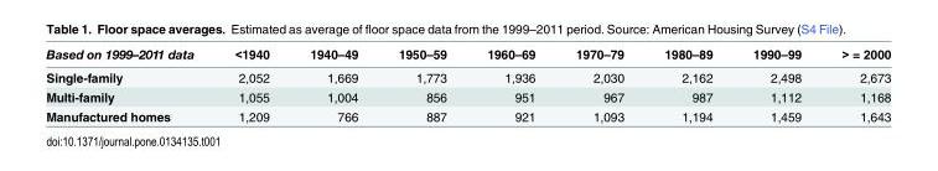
<table><thead><tr><td>Based on 1999–2011 data</td><td>&lt;1940</td><td>1940–49</td><td>1950–59</td><td>1960–69</td><td>1970–79</td><td>1980–89</td><td>1990–99</td><td>&gt; = 2000</td></tr></thead><tbody><tr><td>Single-family</td><td>2,052</td><td>1,669</td><td>1,773</td><td>1,936</td><td>2,030</td><td>2,162</td><td>2,498</td><td>2,673</td></tr><tr><td>Multi-family</td><td>1,055</td><td>1,004</td><td>856</td><td>951</td><td>967</td><td>987</td><td>1,112</td><td>1,168</td></tr><tr><td>Manufactured homes</td><td>1,209</td><td>766</td><td>887</td><td>921</td><td>1,093</td><td>1,194</td><td>1,459</td><td>1,643</td></tr></tbody></table>